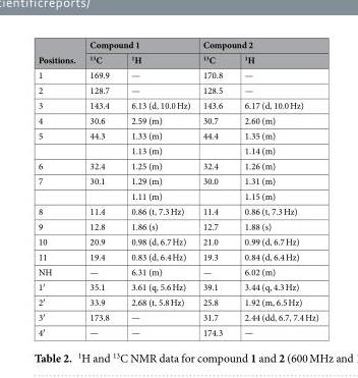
<table><thead><tr><td rowspan="2">Positions.</td><td colspan="2">Compound 1</td><td colspan="2">Compound 2</td></tr><tr><td><sup>13</sup>C</td><td><sup>1</sup>H</td><td><sup>13</sup>C</td><td><sup>1</sup>H</td></tr></thead><tbody><tr><td>1</td><td>169.9</td><td>—</td><td>170.8</td><td>—</td></tr><tr><td>2</td><td>128.7</td><td>—</td><td>128.5</td><td>—</td></tr><tr><td>3</td><td>143.4</td><td>6.13 (d, 10.0 Hz)</td><td>143.6</td><td>6.17 (d, 10.0 Hz)</td></tr><tr><td>4</td><td>30.6</td><td>2.59 (m)</td><td>30.7</td><td>2.60 (m)</td></tr><tr><td rowspan="2">5</td><td>44.3</td><td>1.33 (m)</td><td>44.4</td><td>1.35 (m)</td></tr><tr><td></td><td>1.13 (m)</td><td></td><td>1.14 (m)</td></tr><tr><td>6</td><td>32.4</td><td>1.25 (m)</td><td>32.4</td><td>1.26 (m)</td></tr><tr><td rowspan="2">7</td><td>30.1</td><td>1.29 (m)</td><td>30.0</td><td>1.31 (m)</td></tr><tr><td></td><td>1.11 (m)</td><td></td><td>1.15 (m)</td></tr><tr><td>8</td><td>11.4</td><td>0.86 (t, 7.3 Hz)</td><td>11.4</td><td>0.86 (t, 7.3 Hz)</td></tr><tr><td>9</td><td>12.8</td><td>1.86 (s)</td><td>12.7</td><td>1.88 (s)</td></tr><tr><td>10</td><td>20.9</td><td>0.98 (d, 6.7 Hz)</td><td>21.0</td><td>0.99 (d, 6.7 Hz)</td></tr><tr><td>11</td><td>19.4</td><td>0.83 (d, 6.4 Hz)</td><td>19.3</td><td>0.84 (d, 6.4 Hz)</td></tr><tr><td>NH</td><td>—</td><td>6.31 (m)</td><td>—</td><td>6.02 (m)</td></tr><tr><td>1′</td><td>35.1</td><td>3.61 (q, 5.6 Hz)</td><td>39.1</td><td>3.44 (q, 4.3 Hz)</td></tr><tr><td>2′</td><td>33.9</td><td>2.68 (t, 5.8 Hz)</td><td>25.8</td><td>1.92 (m, 6.5 Hz)</td></tr><tr><td>3′</td><td>173.8</td><td>—</td><td>31.7</td><td>2.44 (dd, 6.7, 7.4 Hz)</td></tr><tr><td>4′</td><td>—</td><td>—</td><td>174.3</td><td>—</td></tr></tbody></table>